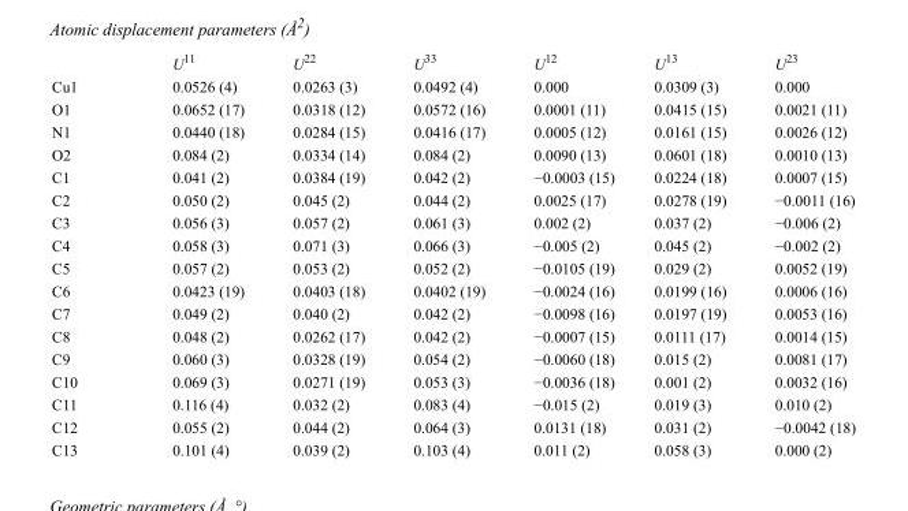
<table><thead><tr><td></td><td>U<sup>11</sup></td><td>U<sup>22</sup></td><td>U<sup>33</sup></td><td>U<sup>12</sup></td><td>U<sup>13</sup></td><td>U<sup>23</sup></td></tr></thead><tbody><tr><td>Cu1</td><td>0.0526 (4)</td><td>0.0263 (3)</td><td>0.0492 (4)</td><td>0.000</td><td>0.0309 (3)</td><td>0.000</td></tr><tr><td>O1</td><td>0.0652 (17)</td><td>0.0318 (12)</td><td>0.0572 (16)</td><td>0.0001 (11)</td><td>0.0415 (15)</td><td>0.0021 (11)</td></tr><tr><td>N1</td><td>0.0440 (18)</td><td>0.0284 (15)</td><td>0.0416 (17)</td><td>0.0005 (12)</td><td>0.0161 (15)</td><td>0.0026 (12)</td></tr><tr><td>O2</td><td>0.084 (2)</td><td>0.0334 (14)</td><td>0.084 (2)</td><td>0.0090 (13)</td><td>0.0601 (18)</td><td>0.0010 (13)</td></tr><tr><td>C1</td><td>0.041 (2)</td><td>0.0384 (19)</td><td>0.042 (2)</td><td>−0.0003 (15)</td><td>0.0224 (18)</td><td>0.0007 (15)</td></tr><tr><td>C2</td><td>0.050 (2)</td><td>0.045 (2)</td><td>0.044 (2)</td><td>0.0025 (17)</td><td>0.0278 (19)</td><td>−0.0011 (16)</td></tr><tr><td>C3</td><td>0.056 (3)</td><td>0.057 (2)</td><td>0.061 (3)</td><td>0.002 (2)</td><td>0.037 (2)</td><td>−0.006 (2)</td></tr><tr><td>C4</td><td>0.058 (3)</td><td>0.071 (3)</td><td>0.066 (3)</td><td>−0.005 (2)</td><td>0.045 (2)</td><td>−0.002 (2)</td></tr><tr><td>C5</td><td>0.057 (2)</td><td>0.053 (2)</td><td>0.052 (2)</td><td>−0.0105 (19)</td><td>0.029 (2)</td><td>0.0052 (19)</td></tr><tr><td>C6</td><td>0.0423 (19)</td><td>0.0403 (18)</td><td>0.0402 (19)</td><td>−0.0024 (16)</td><td>0.0199 (16)</td><td>0.0006 (16)</td></tr><tr><td>C7</td><td>0.049 (2)</td><td>0.040 (2)</td><td>0.042 (2)</td><td>−0.0098 (16)</td><td>0.0197 (19)</td><td>0.0053 (16)</td></tr><tr><td>C8</td><td>0.048 (2)</td><td>0.0262 (17)</td><td>0.042 (2)</td><td>−0.0007 (15)</td><td>0.0111 (17)</td><td>0.0014 (15)</td></tr><tr><td>C9</td><td>0.060 (3)</td><td>0.0328 (19)</td><td>0.054 (2)</td><td>−0.0060 (18)</td><td>0.015 (2)</td><td>0.0081 (17)</td></tr><tr><td>C10</td><td>0.069 (3)</td><td>0.0271 (19)</td><td>0.053 (3)</td><td>−0.0036 (18)</td><td>0.001 (2)</td><td>0.0032 (16)</td></tr><tr><td>C11</td><td>0.116 (4)</td><td>0.032 (2)</td><td>0.083 (4)</td><td>−0.015 (2)</td><td>0.019 (3)</td><td>0.010 (2)</td></tr><tr><td>C12</td><td>0.055 (2)</td><td>0.044 (2)</td><td>0.064 (3)</td><td>0.0131 (18)</td><td>0.031 (2)</td><td>−0.0042 (18)</td></tr><tr><td>C13</td><td>0.101 (4)</td><td>0.039 (2)</td><td>0.103 (4)</td><td>0.011 (2)</td><td>0.058 (3)</td><td>0.000 (2)</td></tr></tbody></table>